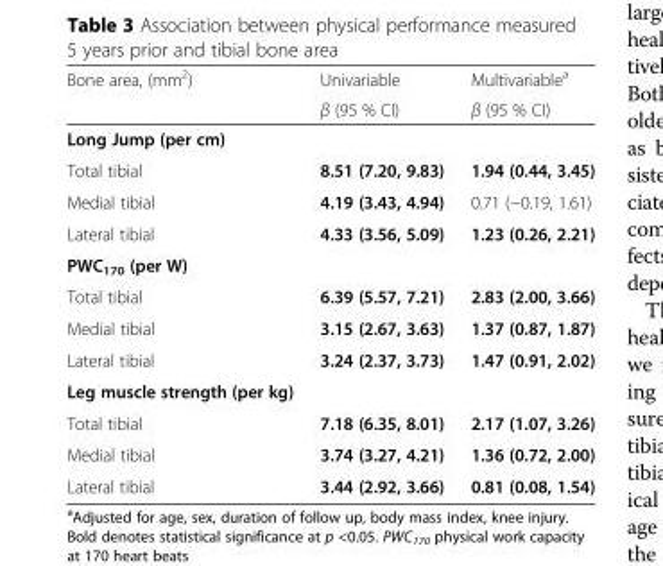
<table><thead><tr><td rowspan="2">Bone area, (mm<sup>2</sup>)</td><td rowspan="2">Univariable β (95 % CI)</td><td rowspan="2">Multivariable<sup>a</sup> β (95 % CI)</td></tr><tr></tr></thead><tbody><tr><td colspan="3">Long Jump (per cm)</td></tr><tr><td>Total tibial</td><td>8.51 (7.20, 9.83)</td><td>1.94 (0.44, 3.45)</td></tr><tr><td>Medial tibial</td><td>4.19 (3.43, 4.94)</td><td>0.71 (−0.19, 1.61)</td></tr><tr><td>Lateral tibial</td><td>4.33 (3.56, 5.09)</td><td>1.23 (0.26, 2.21)</td></tr><tr><td colspan="3">PWC<sub>170</sub> (per W)</td></tr><tr><td>Total tibial</td><td>6.39 (5.57, 7.21)</td><td>2.83 (2.00, 3.66)</td></tr><tr><td>Medial tibial</td><td>3.15 (2.67, 3.63)</td><td>1.37 (0.87, 1.87)</td></tr><tr><td>Lateral tibial</td><td>3.24 (2.37, 3.73)</td><td>1.47 (0.91, 2.02)</td></tr><tr><td colspan="3">Leg muscle strength (per kg)</td></tr><tr><td>Total tibial</td><td>7.18 (6.35, 8.01)</td><td>2.17 (1.07, 3.26)</td></tr><tr><td>Medial tibial</td><td>3.74 (3.27, 4.21)</td><td>1.36 (0.72, 2.00)</td></tr><tr><td>Lateral tibial</td><td>3.44 (2.92, 3.66)</td><td>0.81 (0.08, 1.54)</td></tr></tbody></table>